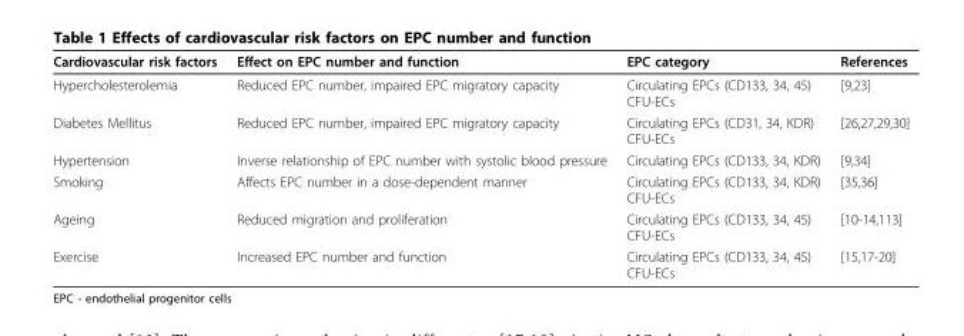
<table><thead><tr><td>Cardiovascular risk factors</td><td>Effect on EPC number and function</td><td>EPC category</td><td>References</td></tr></thead><tbody><tr><td>Hypercholesterolemia</td><td>Reduced EPC number, impaired EPC migratory capacity</td><td>Circulating EPCs (CD133, 34, 45) CFU-ECs</td><td>[9,23]</td></tr><tr><td>Diabetes Mellitus</td><td>Reduced EPC number, impaired EPC migratory capacity</td><td>Circulating EPCs (CD31, 34, KDR) CFU-ECs</td><td>[26,27,29,30]</td></tr><tr><td>Hypertension</td><td>Inverse relationship of EPC number with systolic blood pressure</td><td>Circulating EPCs (CD133, 34, KDR)</td><td>[9,34]</td></tr><tr><td>Smoking</td><td>Affects EPC number in a dose-dependent manner</td><td>Circulating EPCs (CD133, 34, KDR) CFU-ECs</td><td>[35,36]</td></tr><tr><td>Ageing</td><td>Reduced migration and proliferation</td><td>Circulating EPCs (CD133, 34, 45) CFU-ECs</td><td>[10-14,113]</td></tr><tr><td>Exercise</td><td>Increased EPC number and function</td><td>Circulating EPCs (CD133, 34, 45) CFU-ECs</td><td>[15,17-20]</td></tr></tbody></table>